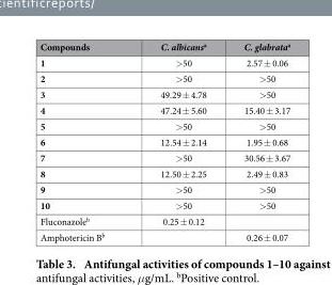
<table><thead><tr><td>Compounds</td><td>C. albicans<sup>a</sup></td><td>C. glabrata<sup>a</sup></td></tr></thead><tbody><tr><td>1</td><td>&gt; 50</td><td>2.57 ± 0.06</td></tr><tr><td>2</td><td>&gt; 50</td><td>&gt; 50</td></tr><tr><td>3</td><td>49.29 ± 4.78</td><td>&gt; 50</td></tr><tr><td>4</td><td>47.24 ± 5.60</td><td>15.40 ± 3.17</td></tr><tr><td>5</td><td>&gt; 50</td><td>&gt; 50</td></tr><tr><td>6</td><td>12.54 ± 2.14</td><td>1.95 ± 0.68</td></tr><tr><td>7</td><td>&gt; 50</td><td>30.56 ± 3.67</td></tr><tr><td>8</td><td>12.50 ± 2.25</td><td>2.49 ± 0.83</td></tr><tr><td>9</td><td>&gt; 50</td><td>&gt; 50</td></tr><tr><td>10</td><td>&gt; 50</td><td>&gt; 50</td></tr><tr><td>Fluconazole<sup>b</sup></td><td>0.25 ± 0.12</td><td></td></tr><tr><td>Amphotericin B<sup>b</sup></td><td></td><td>0.26 ± 0.07</td></tr></tbody></table>